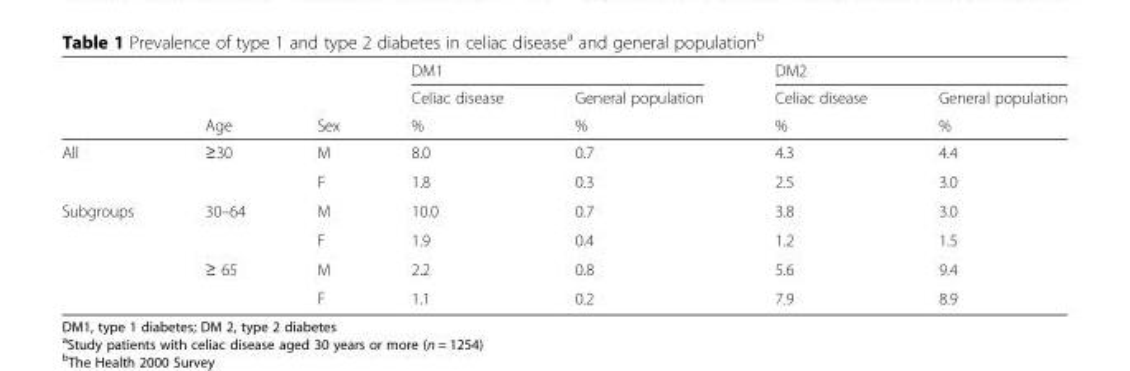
<table><thead><tr><td rowspan="3"></td><td rowspan="3">Age</td><td rowspan="3">Sex</td><td colspan="2">DM1</td><td colspan="2">DM2</td></tr><tr><td rowspan="2">Celiac disease %</td><td rowspan="2">General population %</td><td rowspan="2">Celiac disease %</td><td rowspan="2">General population %</td></tr><tr></tr></thead><tbody><tr><td rowspan="2">All</td><td>≥30</td><td>M</td><td>8.0</td><td>0.7</td><td>4.3</td><td>4.4</td></tr><tr><td></td><td>F</td><td>1.8</td><td>0.3</td><td>2.5</td><td>3.0</td></tr><tr><td rowspan="4">Subgroups</td><td>30–64</td><td>M</td><td>10.0</td><td>0.7</td><td>3.8</td><td>3.0</td></tr><tr><td></td><td>F</td><td>1.9</td><td>0.4</td><td>1.2</td><td>1.5</td></tr><tr><td>≥ 65</td><td>M</td><td>2.2</td><td>0.8</td><td>5.6</td><td>9.4</td></tr><tr><td></td><td>F</td><td>1.1</td><td>0.2</td><td>7.9</td><td>8.9</td></tr></tbody></table>